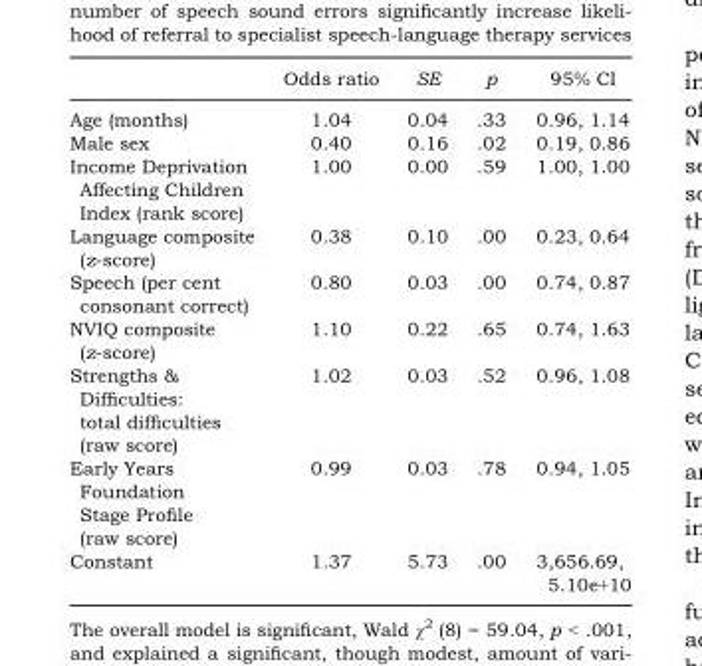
<table><thead><tr><td></td><td>Odds ratio</td><td>SE</td><td>p</td><td>95% CI</td></tr></thead><tbody><tr><td>Age (months)</td><td>1.04</td><td>0.04</td><td>.33</td><td>0.96, 1.14</td></tr><tr><td>Male sex</td><td>0.40</td><td>0.16</td><td>.02</td><td>0.19, 0.86</td></tr><tr><td>Income Deprivation Affecting Children Index (rank score)</td><td>1.00</td><td>0.00</td><td>.59</td><td>1.00, 1.00</td></tr><tr><td>Language composite (z-score)</td><td>0.38</td><td>0.10</td><td>.00</td><td>0.23, 0.64</td></tr><tr><td>Speech (per cent consonant correct)</td><td>0.80</td><td>0.03</td><td>.00</td><td>0.74, 0.87</td></tr><tr><td>NVIQ composite (z-score)</td><td>1.10</td><td>0.22</td><td>.65</td><td>0.74, 1.63</td></tr><tr><td>Strengths &amp; Difficulties: total difficulties (raw score)</td><td>1.02</td><td>0.03</td><td>.52</td><td>0.96, 1.08</td></tr><tr><td>Early Years Foundation Stage Profile (raw score)</td><td>0.99</td><td>0.03</td><td>.78</td><td>0.94, 1.05</td></tr><tr><td>Constant</td><td>1.37</td><td>5.73</td><td>.00</td><td>3,656.69, 5.10e+10</td></tr></tbody></table>